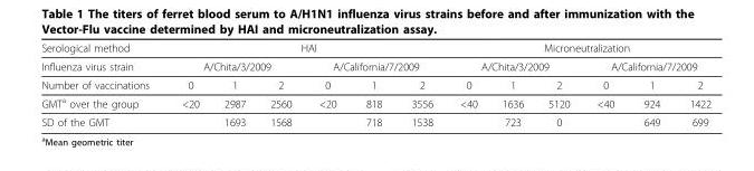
<table><thead><tr><td rowspan="3">Serological method Influenza virus strain Number of vaccinations</td><td colspan="6">HAI</td><td colspan="6">Microneutralization</td></tr><tr><td colspan="3">A/Chita/3/2009</td><td colspan="3">A/California/7/2009</td><td colspan="3">A/Chita/3/2009</td><td colspan="3">A/California/7/2009</td></tr><tr><td>0</td><td>1</td><td>2</td><td>0</td><td>1</td><td>2</td><td>0</td><td>1</td><td>2</td><td>0</td><td>1</td><td>2</td></tr></thead><tbody><tr><td>GMT<sup>a</sup> over the group</td><td>&lt;20</td><td>2987</td><td>2560</td><td>&lt;20</td><td>818</td><td>3556</td><td>&lt;40</td><td>1636</td><td>5120</td><td>&lt;40</td><td>924</td><td>1422</td></tr><tr><td>SD of the GMT</td><td></td><td>1693</td><td>1568</td><td></td><td>718</td><td>1538</td><td></td><td>723</td><td>0</td><td></td><td>649</td><td>699</td></tr></tbody></table>